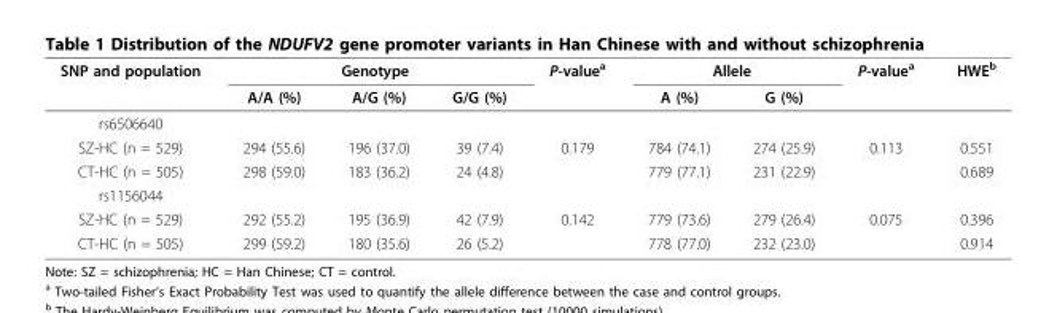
<table><thead><tr><td rowspan="2">SNP and population</td><td colspan="3">Genotype</td><td rowspan="2">P-value<sup>a</sup></td><td colspan="2">Allele</td><td rowspan="2">P-value<sup>a</sup></td><td rowspan="2">HWE<sup>b</sup></td></tr><tr><td>A/A (%)</td><td>A/G (%)</td><td>G/G (%)</td><td>A (%)</td><td>G (%)</td></tr></thead><tbody><tr><td colspan="9">rs6506640</td></tr><tr><td>SZ-HC (n = 529)</td><td>294 (55.6)</td><td>196 (37.0)</td><td>39 (7.4)</td><td>0.179</td><td>784 (74.1)</td><td>274 (25.9)</td><td>0.113</td><td>0.551</td></tr><tr><td>CT-HC (n = 505)</td><td>298 (59.0)</td><td>183 (36.2)</td><td>24 (4.8)</td><td></td><td>779 (77.1)</td><td>231 (22.9)</td><td></td><td>0.689</td></tr><tr><td colspan="9">rs1156044</td></tr><tr><td>SZ-HC (n = 529)</td><td>292 (55.2)</td><td>195 (36.9)</td><td>42 (7.9)</td><td>0.142</td><td>779 (73.6)</td><td>279 (26.4)</td><td>0.075</td><td>0.396</td></tr><tr><td>CT-HC (n = 505)</td><td>299 (59.2)</td><td>180 (35.6)</td><td>26 (5.2)</td><td></td><td>778 (77.0)</td><td>232 (23.0)</td><td></td><td>0.914</td></tr></tbody></table>